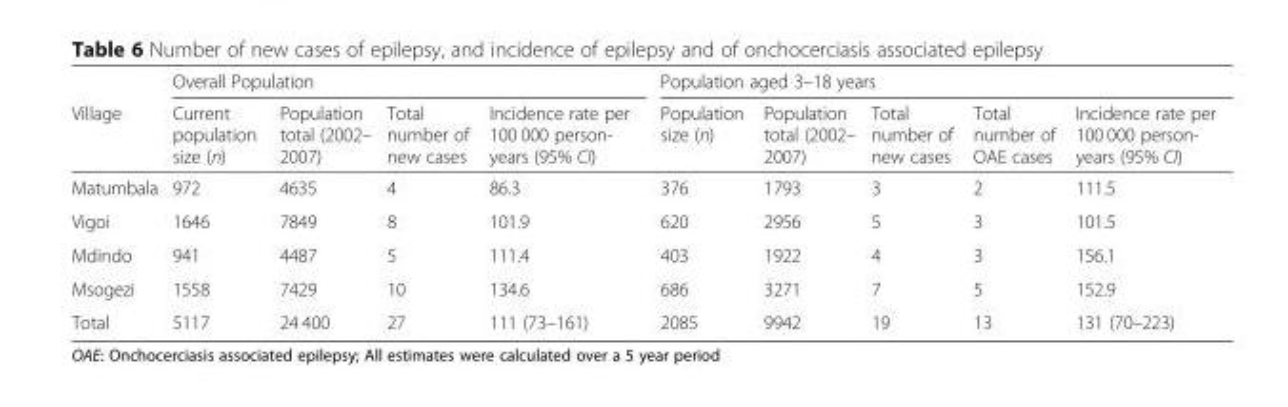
<table><thead><tr><td rowspan="2">Village</td><td colspan="4">Overall Population</td><td colspan="5">Population aged 3–18 years</td></tr><tr><td>Current population size (n)</td><td>Population total (2002– 2007)</td><td>Total number of new cases</td><td>Incidence rate per 100 000 person- years (95% CI)</td><td>Population size (n)</td><td>Population total (2002– 2007)</td><td>Total number of new cases</td><td>Total number of OAE cases</td><td>Incidence rate per 100 000 person- years (95% CI)</td></tr></thead><tbody><tr><td>Matumbala</td><td>972</td><td>4635</td><td>4</td><td>86.3</td><td>376</td><td>1793</td><td>3</td><td>2</td><td>111.5</td></tr><tr><td>Vigoi</td><td>1646</td><td>7849</td><td>8</td><td>101.9</td><td>620</td><td>2956</td><td>5</td><td>3</td><td>101.5</td></tr><tr><td>Mdindo</td><td>941</td><td>4487</td><td>5</td><td>111.4</td><td>403</td><td>1922</td><td>4</td><td>3</td><td>156.1</td></tr><tr><td>Msogezi</td><td>1558</td><td>7429</td><td>10</td><td>134.6</td><td>686</td><td>3271</td><td>7</td><td>5</td><td>152.9</td></tr><tr><td>Total</td><td>5117</td><td>24 400</td><td>27</td><td>111 (73–161)</td><td>2085</td><td>9942</td><td>19</td><td>13</td><td>131 (70–223)</td></tr></tbody></table>